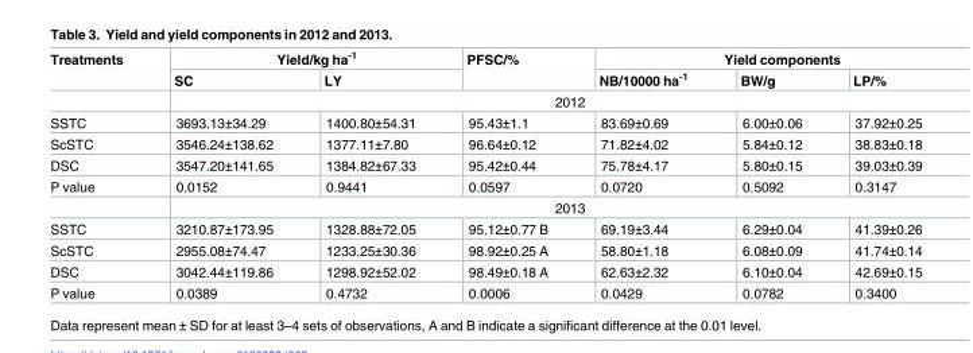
<table><thead><tr><td rowspan="2">Treatments</td><td colspan="2">Yield/kg ha<sup>-1</sup></td><td rowspan="2">PFSC/%</td><td colspan="3">Yield components</td></tr><tr><td>SC</td><td>LY</td><td>NB/10000 ha<sup>-1</sup></td><td>BW/g</td><td>LP/%</td></tr></thead><tbody><tr><td></td><td colspan="6">2012</td></tr><tr><td>SSTC</td><td>3693.13±34.29</td><td>1400.80±54.31</td><td>95.43±1.1</td><td>83.69±0.69</td><td>6.00±0.06</td><td>37.92±0.25</td></tr><tr><td>ScSTC</td><td>3546.24±138.62</td><td>1377.11±7.80</td><td>96.64±0.12</td><td>71.82±4.02</td><td>5.84±0.12</td><td>38.83±0.18</td></tr><tr><td>DSC</td><td>3547.20±141.65</td><td>1384.82±67.33</td><td>95.42±0.44</td><td>75.78±4.17</td><td>5.80±0.15</td><td>39.03±0.39</td></tr><tr><td rowspan="2">P value</td><td>0.0152</td><td>0.9441</td><td>0.0597</td><td>0.0720</td><td>0.5092</td><td>0.3147</td></tr><tr><td colspan="6">2013</td></tr><tr><td>SSTC</td><td>3210.87±173.95</td><td>1328.88±72.05</td><td>95.12±0.77 B</td><td>69.19±3.44</td><td>6.29±0.04</td><td>41.39±0.26</td></tr><tr><td>ScSTC</td><td>2955.08±74.47</td><td>1233.25±30.36</td><td>98.92±0.25 A</td><td>58.80±1.18</td><td>6.08±0.09</td><td>41.74±0.14</td></tr><tr><td>DSC</td><td>3042.44±119.86</td><td>1298.92±52.02</td><td>98.49±0.18 A</td><td>62.63±2.32</td><td>6.10±0.04</td><td>42.69±0.15</td></tr><tr><td>P value</td><td>0.0389</td><td>0.4732</td><td>0.0006</td><td>0.0429</td><td>0.0782</td><td>0.3400</td></tr></tbody></table>